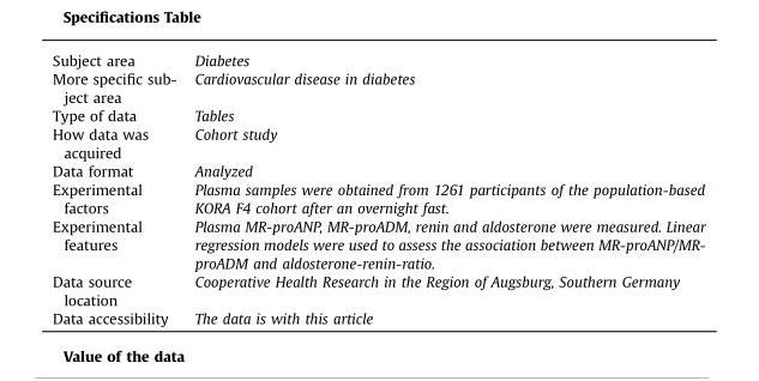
<table><tbody><tr><td>Subject area</td><td>Diabetes</td></tr><tr><td>More specific sub- ject area</td><td>Cardiovascular disease in diabetes</td></tr><tr><td>Type of data</td><td>Tables</td></tr><tr><td>How data was acquired</td><td>Cohort study</td></tr><tr><td>Data format</td><td>Analyzed</td></tr><tr><td>Experimental factors</td><td>Plasma samples were obtained from 1261 participants of the population-based KORA F4 cohort after an overnight fast.</td></tr><tr><td>Experimental features</td><td>Plasma MR-proANP, MR-proADM, renin and aldosterone were measured. Linear regression models were used to assess the association between MR-proANP/MR- proADM and aldosterone-renin-ratio.</td></tr><tr><td>Data source location</td><td>Cooperative Health Research in the Region of Augsburg, Southern Germany</td></tr><tr><td>Data accessibility</td><td>The data is with this article</td></tr></tbody></table>